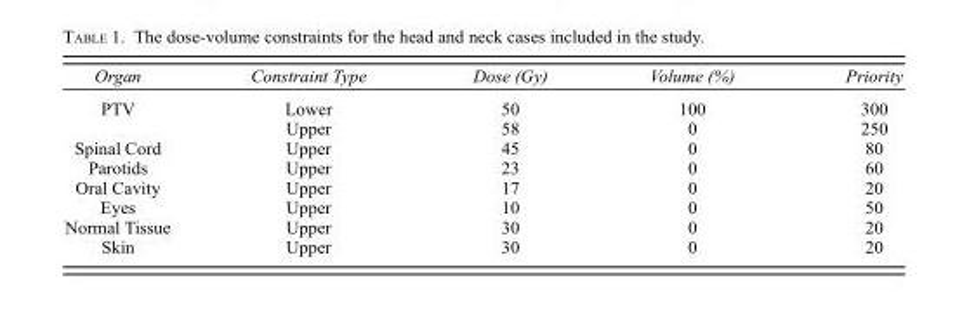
<table><thead><tr><td>Organ</td><td>Constraint Type</td><td>Dose (Gy)</td><td>Volume (%)</td><td>Priority</td></tr></thead><tbody><tr><td rowspan="2">PTV</td><td>Lower</td><td>50</td><td>100</td><td>300</td></tr><tr><td>Upper</td><td>58</td><td>0</td><td>250</td></tr><tr><td>Spinal Cord</td><td>Upper</td><td>45</td><td>0</td><td>80</td></tr><tr><td>Parotids</td><td>Upper</td><td>23</td><td>0</td><td>60</td></tr><tr><td>Oral Cavity</td><td>Upper</td><td>17</td><td>0</td><td>20</td></tr><tr><td>Eyes</td><td>Upper</td><td>10</td><td>0</td><td>50</td></tr><tr><td>Normal Tissue</td><td>Upper</td><td>30</td><td>0</td><td>20</td></tr><tr><td>Skin</td><td>Upper</td><td>30</td><td>0</td><td>20</td></tr></tbody></table>